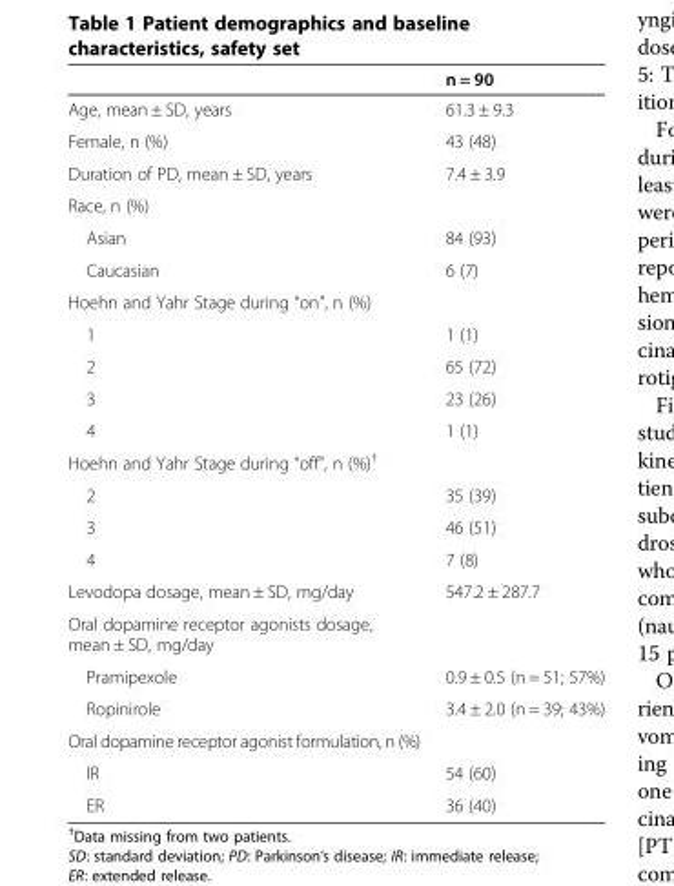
<table><thead><tr><td></td><td>n = 90</td></tr></thead><tbody><tr><td>Age, mean ± SD, years</td><td>61.3 ± 9.3</td></tr><tr><td>Female, n (%)</td><td>43 (48)</td></tr><tr><td>Duration of PD, mean ± SD, years</td><td>7.4 ± 3.9</td></tr><tr><td colspan="2">Race, n (%)</td></tr><tr><td>Asian</td><td>84 (93)</td></tr><tr><td>Caucasian</td><td>6 (7)</td></tr><tr><td colspan="2">Hoehn and Yahr Stage during “on”, n (%)</td></tr><tr><td>1</td><td>1 (1)</td></tr><tr><td>2</td><td>65 (72)</td></tr><tr><td>3</td><td>23 (26)</td></tr><tr><td>4</td><td>1 (1)</td></tr><tr><td colspan="2">Hoehn and Yahr Stage during “off”, n (%)<sup>†</sup></td></tr><tr><td>2</td><td>35 (39)</td></tr><tr><td>3</td><td>46 (51)</td></tr><tr><td>4</td><td>7 (8)</td></tr><tr><td>Levodopa dosage, mean ± SD, mg/day</td><td>547.2 ± 287.7</td></tr><tr><td colspan="2">Oral dopamine receptor agonists dosage, mean ± SD, mg/day</td></tr><tr><td>Pramipexole</td><td>0.9 ± 0.5 (n = 51; 57%)</td></tr><tr><td>Ropinirole</td><td>3.4 ± 2.0 (n = 39; 43%)</td></tr><tr><td colspan="2">Oral dopamine receptor agonist formulation, n (%)</td></tr><tr><td>IR</td><td>54 (60)</td></tr><tr><td>ER</td><td>36 (40)</td></tr></tbody></table>